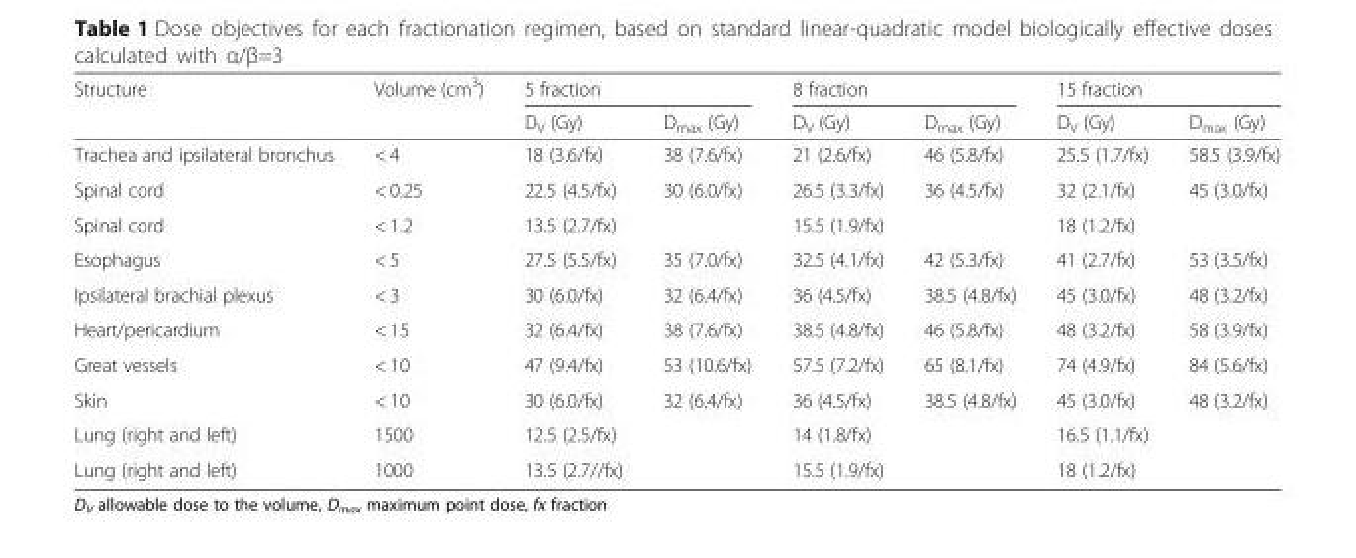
<table><thead><tr><td rowspan="2">Structure</td><td rowspan="2">Volume (cm<sup>3</sup>)</td><td colspan="2">5 fraction</td><td colspan="2">8 fraction</td><td colspan="2">15 fraction</td></tr><tr><td>D<sub>V</sub> (Gy)</td><td>D<sub>max</sub> (Gy)</td><td>D<sub>V</sub> (Gy)</td><td>D<sub>max</sub> (Gy)</td><td>D<sub>V</sub> (Gy)</td><td>D<sub>max</sub> (Gy)</td></tr></thead><tbody><tr><td>Trachea and ipsilateral bronchus</td><td>&lt; 4</td><td>18 (3.6/fx)</td><td>38 (7.6/fx)</td><td>21 (2.6/fx)</td><td>46 (5.8/fx)</td><td>25.5 (1.7/fx)</td><td>58.5 (3.9/fx)</td></tr><tr><td>Spinal cord</td><td>&lt; 0.25</td><td>22.5 (4.5/fx)</td><td>30 (6.0/fx)</td><td>26.5 (3.3/fx)</td><td>36 (4.5/fx)</td><td>32 (2.1/fx)</td><td>45 (3.0/fx)</td></tr><tr><td>Spinal cord</td><td>&lt; 1.2</td><td>13.5 (2.7/fx)</td><td></td><td>15.5 (1.9/fx)</td><td></td><td>18 (1.2/fx)</td><td></td></tr><tr><td>Esophagus</td><td>&lt; 5</td><td>27.5 (5.5/fx)</td><td>35 (7.0/fx)</td><td>32.5 (4.1/fx)</td><td>42 (5.3/fx)</td><td>41 (2.7/fx)</td><td>53 (3.5/fx)</td></tr><tr><td>Ipsilateral brachial plexus</td><td>&lt; 3</td><td>30 (6.0/fx)</td><td>32 (6.4/fx)</td><td>36 (4.5/fx)</td><td>38.5 (4.8/fx)</td><td>45 (3.0/fx)</td><td>48 (3.2/fx)</td></tr><tr><td>Heart/pericardium</td><td>&lt; 15</td><td>32 (6.4/fx)</td><td>38 (7.6/fx)</td><td>38.5 (4.8/fx)</td><td>46 (5.8/fx)</td><td>48 (3.2/fx)</td><td>58 (3.9/fx)</td></tr><tr><td>Great vessels</td><td>&lt; 10</td><td>47 (9.4/fx)</td><td>53 (10.6/fx)</td><td>57.5 (7.2/fx)</td><td>65 (8.1/fx)</td><td>74 (4.9/fx)</td><td>84 (5.6/fx)</td></tr><tr><td>Skin</td><td>&lt; 10</td><td>30 (6.0/fx)</td><td>32 (6.4/fx)</td><td>36 (4.5/fx)</td><td>38.5 (4.8/fx)</td><td>45 (3.0/fx)</td><td>48 (3.2/fx)</td></tr><tr><td>Lung (right and left)</td><td>1500</td><td>12.5 (2.5/fx)</td><td></td><td>14 (1.8/fx)</td><td></td><td>16.5 (1.1/fx)</td><td></td></tr><tr><td>Lung (right and left)</td><td>1000</td><td>13.5 (2.7//fx)</td><td></td><td>15.5 (1.9/fx)</td><td></td><td>18 (1.2/fx)</td><td></td></tr></tbody></table>